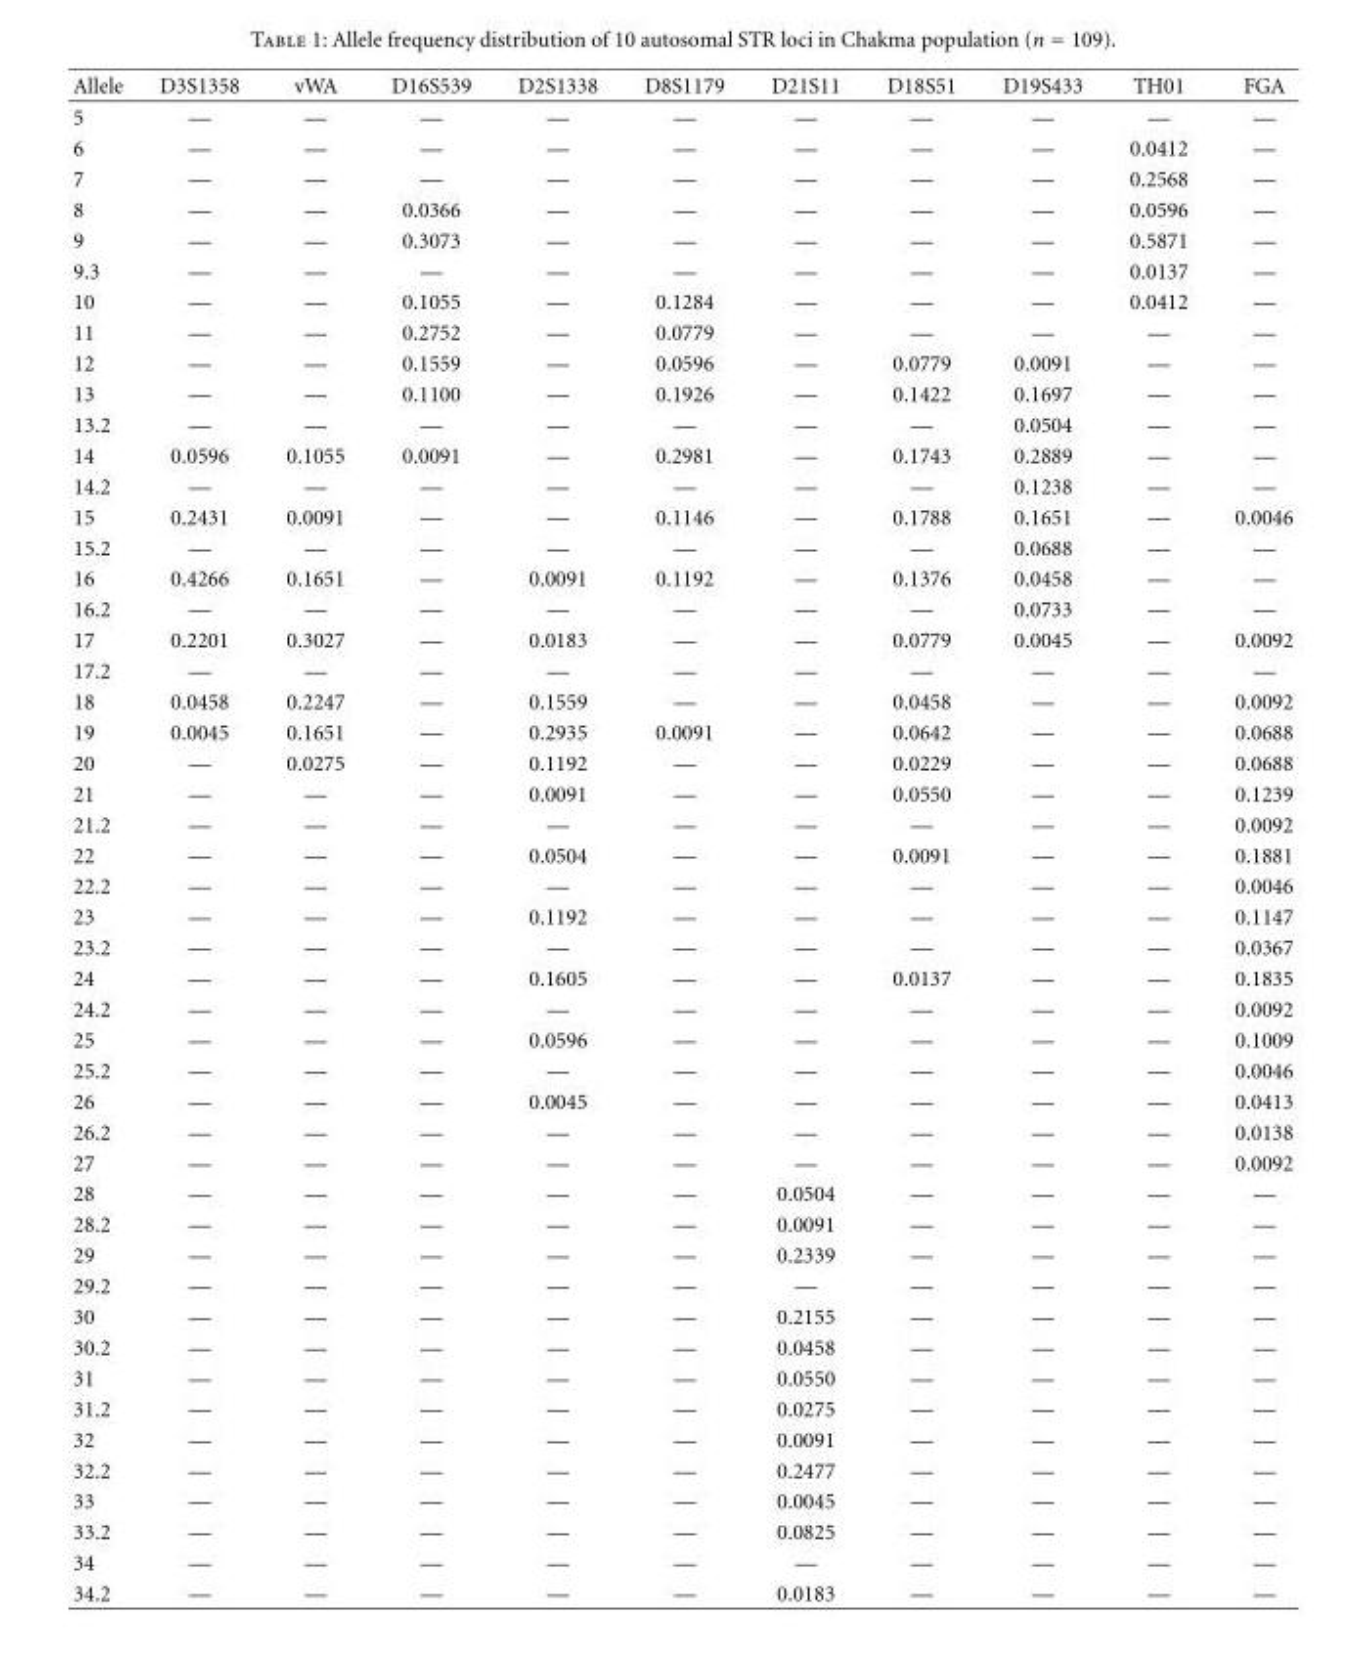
<table><thead><tr><td>Allele</td><td>D3S1358</td><td>vWA</td><td>D16S539</td><td>D2S1338</td><td>D8S1179</td><td>D21S11</td><td>D18S51</td><td>D19S433</td><td>TH01</td><td>FGA</td></tr></thead><tbody><tr><td>5</td><td>—</td><td>—</td><td>—</td><td>—</td><td>—</td><td>—</td><td>—</td><td>—</td><td>—</td><td>—</td></tr><tr><td>6</td><td>—</td><td>—</td><td>—</td><td>—</td><td>—</td><td>—</td><td>—</td><td>—</td><td>0.0412</td><td>—</td></tr><tr><td>7</td><td>—</td><td>—</td><td>—</td><td>—</td><td>—</td><td>—</td><td>—</td><td>—</td><td>0.2568</td><td>—</td></tr><tr><td>8</td><td>—</td><td>—</td><td>0.0366</td><td>—</td><td>—</td><td>—</td><td>—</td><td>—</td><td>0.0596</td><td>—</td></tr><tr><td>9</td><td>—</td><td>—</td><td>0.3073</td><td>—</td><td>—</td><td>—</td><td>—</td><td>—</td><td>0.5871</td><td>—</td></tr><tr><td>9.3</td><td>—</td><td>—</td><td>—</td><td>—</td><td>—</td><td>—</td><td>—</td><td>—</td><td>0.0137</td><td>—</td></tr><tr><td>10</td><td>—</td><td>—</td><td>0.1055</td><td>—</td><td>0.1284</td><td>—</td><td>—</td><td>—</td><td>0.0412</td><td>—</td></tr><tr><td>11</td><td>—</td><td>—</td><td>0.2752</td><td>—</td><td>0.0779</td><td>—</td><td>—</td><td>—</td><td>—</td><td>—</td></tr><tr><td>12</td><td>—</td><td>—</td><td>0.1559</td><td>—</td><td>0.0596</td><td>—</td><td>0.0779</td><td>0.0091</td><td>—</td><td>—</td></tr><tr><td>13</td><td>—</td><td>—</td><td>0.1100</td><td>—</td><td>0.1926</td><td>—</td><td>0.1422</td><td>0.1697</td><td>—</td><td>—</td></tr><tr><td>13.2</td><td>—</td><td>—</td><td>—</td><td>—</td><td>—</td><td>—</td><td>—</td><td>0.0504</td><td>—</td><td>—</td></tr><tr><td>14</td><td>0.0596</td><td>0.1055</td><td>0.0091</td><td>—</td><td>0.2981</td><td>—</td><td>0.1743</td><td>0.2889</td><td>—</td><td>—</td></tr><tr><td>14.2</td><td>—</td><td>—</td><td>—</td><td>—</td><td>—</td><td>—</td><td>—</td><td>0.1238</td><td>—</td><td>—</td></tr><tr><td>15</td><td>0.2431</td><td>0.0091</td><td>—</td><td>—</td><td>0.1146</td><td>—</td><td>0.1788</td><td>0.1651</td><td>—</td><td>0.0046</td></tr><tr><td>15.2</td><td>—</td><td>—</td><td>—</td><td>—</td><td>—</td><td>—</td><td>—</td><td>0.0688</td><td>—</td><td>—</td></tr><tr><td>16</td><td>0.4266</td><td>0.1651</td><td>—</td><td>0.0091</td><td>0.1192</td><td>—</td><td>0.1376</td><td>0.0458</td><td>—</td><td>—</td></tr><tr><td>16.2</td><td>—</td><td>—</td><td>—</td><td>—</td><td>—</td><td>—</td><td>—</td><td>0.0733</td><td>—</td><td>—</td></tr><tr><td>17</td><td>0.2201</td><td>0.3027</td><td>—</td><td>0.0183</td><td>—</td><td>—</td><td>0.0779</td><td>0.0045</td><td>—</td><td>0.0092</td></tr><tr><td>17.2</td><td>—</td><td>—</td><td>—</td><td>—</td><td>—</td><td>—</td><td>—</td><td>—</td><td>—</td><td>—</td></tr><tr><td>18</td><td>0.0458</td><td>0.2247</td><td>—</td><td>0.1559</td><td>—</td><td>—</td><td>0.0458</td><td>—</td><td>—</td><td>0.0092</td></tr><tr><td>19</td><td>0.0045</td><td>0.1651</td><td>—</td><td>0.2935</td><td>0.0091</td><td>—</td><td>0.0642</td><td>—</td><td>—</td><td>0.0688</td></tr><tr><td>20</td><td>—</td><td>0.0275</td><td>—</td><td>0.1192</td><td>—</td><td>—</td><td>0.0229</td><td>—</td><td>—</td><td>0.0688</td></tr><tr><td>21</td><td>—</td><td>—</td><td>—</td><td>0.0091</td><td>—</td><td>—</td><td>0.0550</td><td>—</td><td>—</td><td>0.1239</td></tr><tr><td>21.2</td><td>—</td><td>—</td><td>—</td><td>—</td><td>—</td><td>—</td><td>—</td><td>—</td><td>—</td><td>0.0092</td></tr><tr><td>22</td><td>—</td><td>—</td><td>—</td><td>0.0504</td><td>—</td><td>—</td><td>0.0091</td><td>—</td><td>—</td><td>0.1881</td></tr><tr><td>22.2</td><td>—</td><td>—</td><td>—</td><td>—</td><td>—</td><td>—</td><td>—</td><td>—</td><td>—</td><td>0.0046</td></tr><tr><td>23</td><td>—</td><td>—</td><td>—</td><td>0.1192</td><td>—</td><td>—</td><td>—</td><td>—</td><td>—</td><td>0.1147</td></tr><tr><td>23.2</td><td>—</td><td>—</td><td>—</td><td>—</td><td>—</td><td>—</td><td>—</td><td>—</td><td>—</td><td>0.0367</td></tr><tr><td>24</td><td>—</td><td>—</td><td>—</td><td>0.1605</td><td>—</td><td>—</td><td>0.0137</td><td>—</td><td>—</td><td>0.1835</td></tr><tr><td>24.2</td><td>—</td><td>—</td><td>—</td><td>—</td><td>—</td><td>—</td><td>—</td><td>—</td><td>—</td><td>0.0092</td></tr><tr><td>25</td><td>—</td><td>—</td><td>—</td><td>0.0596</td><td>—</td><td>—</td><td>—</td><td>—</td><td>—</td><td>0.1009</td></tr><tr><td>25.2</td><td>—</td><td>—</td><td>—</td><td>—</td><td>—</td><td>—</td><td>—</td><td>—</td><td>—</td><td>0.0046</td></tr><tr><td>26</td><td>—</td><td>—</td><td>—</td><td>0.0045</td><td>—</td><td>—</td><td>—</td><td>—</td><td>—</td><td>0.0413</td></tr><tr><td>26.2</td><td>—</td><td>—</td><td>—</td><td>—</td><td>—</td><td>—</td><td>—</td><td>—</td><td>—</td><td>0.0138</td></tr><tr><td>27</td><td>—</td><td>—</td><td>—</td><td>—</td><td>—</td><td>—</td><td>—</td><td>—</td><td>—</td><td>0.0092</td></tr><tr><td>28</td><td>—</td><td>—</td><td>—</td><td>—</td><td>—</td><td>0.0504</td><td>—</td><td>—</td><td>—</td><td>—</td></tr><tr><td>28.2</td><td>—</td><td>—</td><td>—</td><td>—</td><td>—</td><td>0.0091</td><td>—</td><td>—</td><td>—</td><td>—</td></tr><tr><td>29</td><td>—</td><td>—</td><td>—</td><td>—</td><td>—</td><td>0.2339</td><td>—</td><td>—</td><td>—</td><td>—</td></tr><tr><td>29.2</td><td>—</td><td>—</td><td>—</td><td>—</td><td>—</td><td>—</td><td>—</td><td>—</td><td>—</td><td>—</td></tr><tr><td>30</td><td>—</td><td>—</td><td>—</td><td>—</td><td>—</td><td>0.2155</td><td>—</td><td>—</td><td>—</td><td>—</td></tr><tr><td>30.2</td><td>—</td><td>—</td><td>—</td><td>—</td><td>—</td><td>0.0458</td><td>—</td><td>—</td><td>—</td><td>—</td></tr><tr><td>31</td><td>—</td><td>—</td><td>—</td><td>—</td><td>—</td><td>0.0550</td><td>—</td><td>—</td><td>—</td><td>—</td></tr><tr><td>31.2</td><td>—</td><td>—</td><td>—</td><td>—</td><td>—</td><td>0.0275</td><td>—</td><td>—</td><td>—</td><td>—</td></tr><tr><td>32</td><td>—</td><td>—</td><td>—</td><td>—</td><td>—</td><td>0.0091</td><td>—</td><td>—</td><td>—</td><td>—</td></tr><tr><td>32.2</td><td>—</td><td>—</td><td>—</td><td>—</td><td>—</td><td>0.2477</td><td>—</td><td>—</td><td>—</td><td>—</td></tr><tr><td>33</td><td>—</td><td>—</td><td>—</td><td>—</td><td>—</td><td>0.0045</td><td>—</td><td>—</td><td>—</td><td>—</td></tr><tr><td>33.2</td><td>—</td><td>—</td><td>—</td><td>—</td><td>—</td><td>0.0825</td><td>—</td><td>—</td><td>—</td><td>—</td></tr><tr><td>34</td><td>—</td><td>—</td><td>—</td><td>—</td><td>—</td><td>—</td><td>—</td><td>—</td><td>—</td><td>—</td></tr><tr><td>34.2</td><td>—</td><td>—</td><td>—</td><td>—</td><td>—</td><td>0.0183</td><td>—</td><td>—</td><td>—</td><td>—</td></tr></tbody></table>